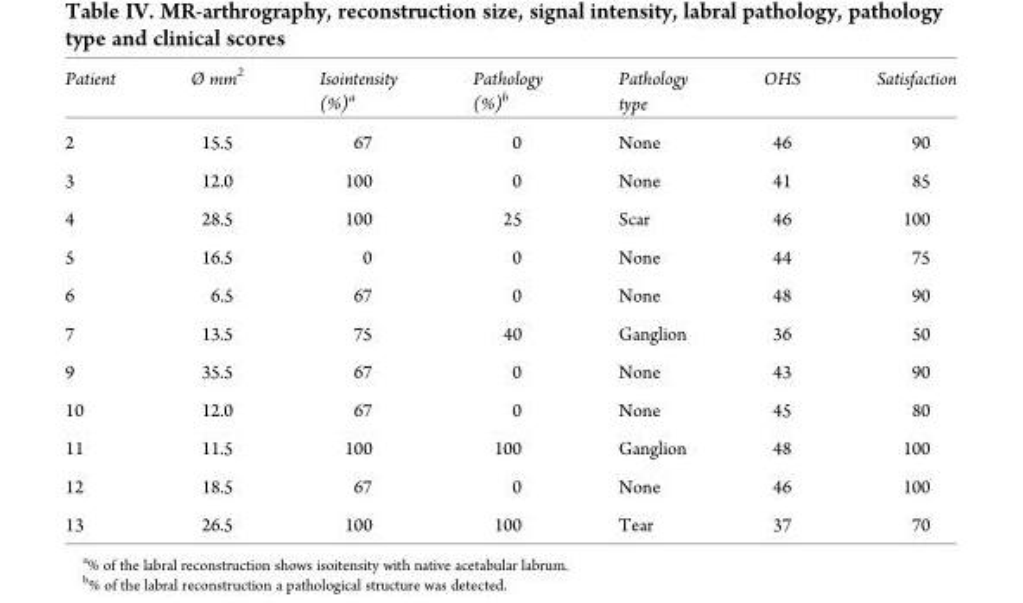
<table><thead><tr><td>Patient</td><td>Ø mm<sup>2</sup></td><td>Isointensity (%)<sup>a</sup></td><td>Pathology (%)<sup>b</sup></td><td>Pathology type</td><td>OHS</td><td>Satisfaction</td></tr></thead><tbody><tr><td>2</td><td>15.5</td><td>67</td><td>0</td><td>None</td><td>46</td><td>90</td></tr><tr><td>3</td><td>12.0</td><td>100</td><td>0</td><td>None</td><td>41</td><td>85</td></tr><tr><td>4</td><td>28.5</td><td>100</td><td>25</td><td>Scar</td><td>46</td><td>100</td></tr><tr><td>5</td><td>16.5</td><td>0</td><td>0</td><td>None</td><td>44</td><td>75</td></tr><tr><td>6</td><td>6.5</td><td>67</td><td>0</td><td>None</td><td>48</td><td>90</td></tr><tr><td>7</td><td>13.5</td><td>75</td><td>40</td><td>Ganglion</td><td>36</td><td>50</td></tr><tr><td>9</td><td>35.5</td><td>67</td><td>0</td><td>None</td><td>43</td><td>90</td></tr><tr><td>10</td><td>12.0</td><td>67</td><td>0</td><td>None</td><td>45</td><td>80</td></tr><tr><td>11</td><td>11.5</td><td>100</td><td>100</td><td>Ganglion</td><td>48</td><td>100</td></tr><tr><td>12</td><td>18.5</td><td>67</td><td>0</td><td>None</td><td>46</td><td>100</td></tr><tr><td>13</td><td>26.5</td><td>100</td><td>100</td><td>Tear</td><td>37</td><td>70</td></tr></tbody></table>